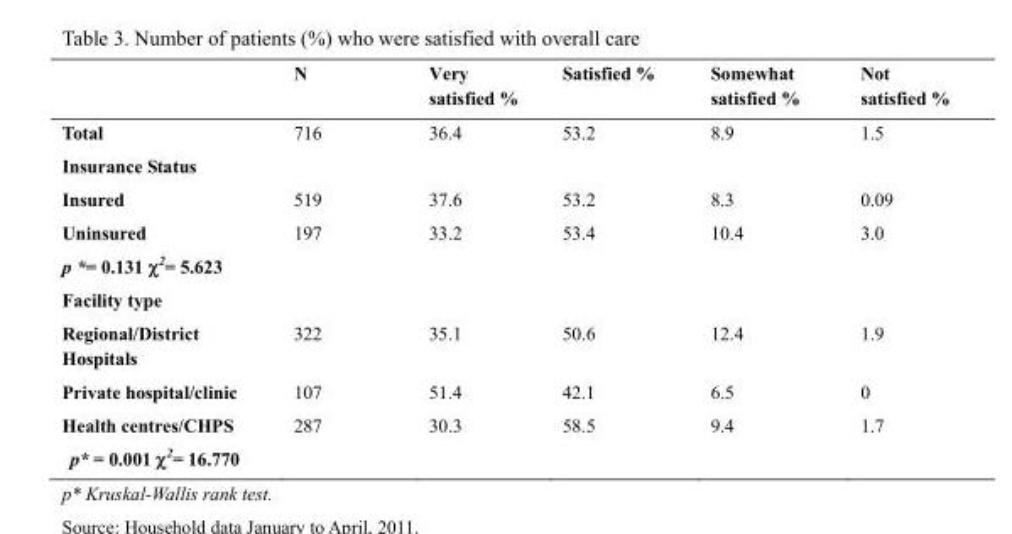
<table><thead><tr><td></td><td>N</td><td>Very satisfied %</td><td>Satisfied %</td><td>Somewhat satisfied %</td><td>Not satisfied %</td></tr></thead><tbody><tr><td>Total</td><td>716</td><td>36.4</td><td>53.2</td><td>8.9</td><td>1.5</td></tr><tr><td colspan="6">Insurance Status</td></tr><tr><td>Insured</td><td>519</td><td>37.6</td><td>53.2</td><td>8.3</td><td>0.09</td></tr><tr><td>Uninsured</td><td>197</td><td>33.2</td><td>53.4</td><td>10.4</td><td>3.0</td></tr><tr><td colspan="6">p *= 0.131 χ<sup>2</sup>= 5.623</td></tr><tr><td colspan="6">Facility type</td></tr><tr><td>Regional/District Hospitals</td><td>322</td><td>35.1</td><td>50.6</td><td>12.4</td><td>1.9</td></tr><tr><td>Private hospital/clinic</td><td>107</td><td>51.4</td><td>42.1</td><td>6.5</td><td>0</td></tr><tr><td>Health centres/CHPS</td><td>287</td><td>30.3</td><td>58.5</td><td>9.4</td><td>1.7</td></tr><tr><td>p* = 0.001 χ<sup>2</sup>= 16.770</td><td></td><td></td><td></td><td></td><td></td></tr></tbody></table>